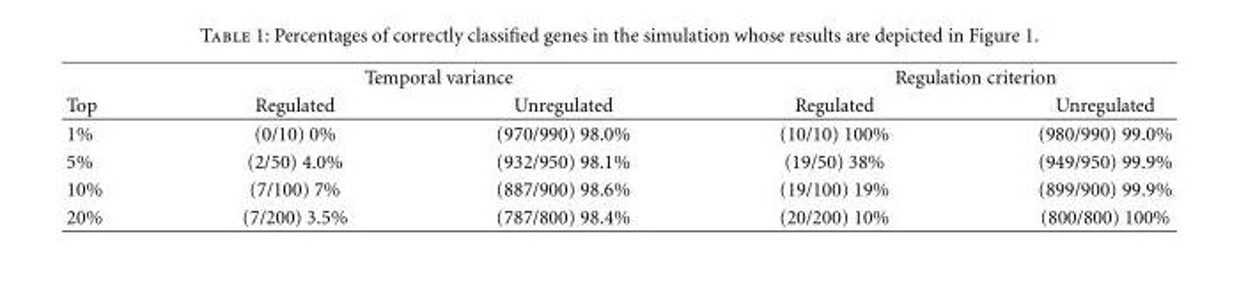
<table><thead><tr><td rowspan="2">Top</td><td colspan="2">Temporal variance</td><td colspan="2">Regulation criterion</td></tr><tr><td>Regulated</td><td>Unregulated</td><td>Regulated</td><td>Unregulated</td></tr></thead><tbody><tr><td>1%</td><td>(0/10) 0%</td><td>(970/990) 98.0%</td><td>(10/10) 100%</td><td>(980/990) 99.0%</td></tr><tr><td>5%</td><td>(2/50) 4.0%</td><td>(932/950) 98.1%</td><td>(19/50) 38%</td><td>(949/950) 99.9%</td></tr><tr><td>10%</td><td>(7/100) 7%</td><td>(887/900) 98.6%</td><td>(19/100) 19%</td><td>(899/900) 99.9%</td></tr><tr><td>20%</td><td>(7/200) 3.5%</td><td>(787/800) 98.4%</td><td>(20/200) 10%</td><td>(800/800) 100%</td></tr></tbody></table>